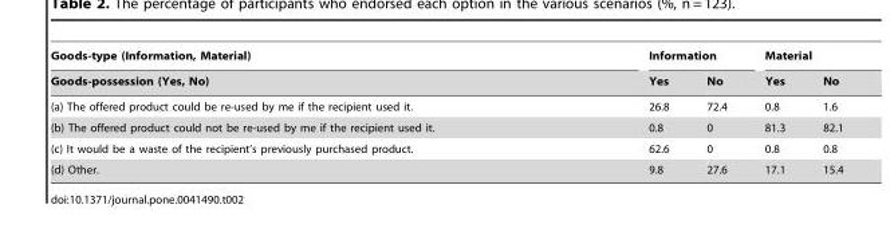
<table><thead><tr><td rowspan="2">Goods-type (Information, Material) Goods-possession (Yes, No)</td><td colspan="2">Information</td><td colspan="2">Material</td></tr><tr><td>Yes</td><td>No</td><td>Yes</td><td>No</td></tr></thead><tbody><tr><td>(a) The offered product could be re-used by me if the recipient used it.</td><td>26.8</td><td>72.4</td><td>0.8</td><td>1.6</td></tr><tr><td>(b) The offered product could not be re-used by me if the recipient used it.</td><td>0.8</td><td>0</td><td>81.3</td><td>82.1</td></tr><tr><td>(c) It would be a waste of the recipient’s previously purchased product.</td><td>62.6</td><td>0</td><td>0.8</td><td>0.8</td></tr><tr><td>(d) Other.</td><td>9.8</td><td>27.6</td><td>17.1</td><td>15.4</td></tr></tbody></table>